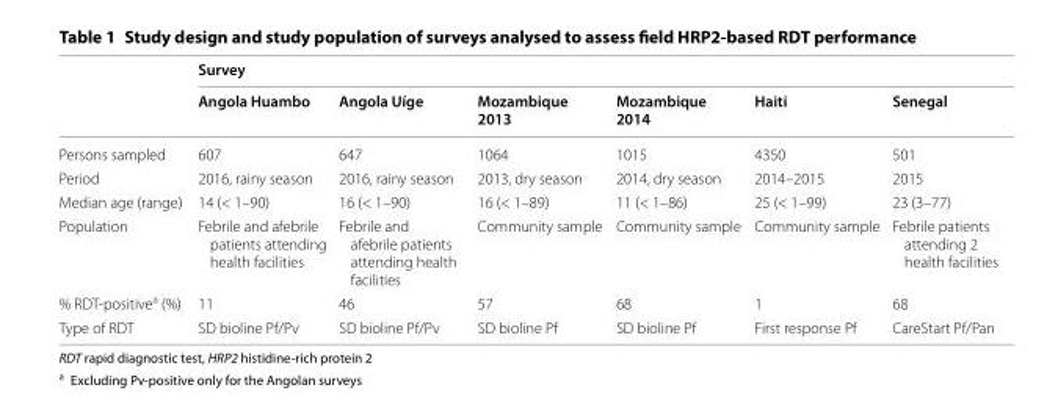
<table><thead><tr><td rowspan="2"></td><td colspan="6">Survey</td></tr><tr><td>Angola Huambo</td><td>Angola Uíge</td><td>Mozambique 2013</td><td>Mozambique 2014</td><td>Haiti</td><td>Senegal</td></tr></thead><tbody><tr><td>Persons sampled</td><td>607</td><td>647</td><td>1064</td><td>1015</td><td>4350</td><td>501</td></tr><tr><td>Period</td><td>2016, rainy season</td><td>2016, rainy season</td><td>2013, dry season</td><td>2014, dry season</td><td>2014–2015</td><td>2015</td></tr><tr><td>Median age (range)</td><td>14 (&lt; 1–90)</td><td>16 (&lt; 1–90)</td><td>16 (&lt; 1–89)</td><td>11 (&lt; 1–86)</td><td>25 (&lt; 1–99)</td><td>23 (3–77)</td></tr><tr><td>Population</td><td>Febrile and afebrile patients attending health facilities</td><td>Febrile and afebrile patients attending health facilities</td><td>Community sample</td><td>Community sample</td><td>Community sample</td><td>Febrile patients attending 2 health facilities</td></tr><tr><td>% RDT-positive<sup>a</sup> (%)</td><td>11</td><td>46</td><td>57</td><td>68</td><td>1</td><td>68</td></tr><tr><td>Type of RDT</td><td>SD bioline Pf/Pv</td><td>SD bioline Pf/Pv</td><td>SD bioline Pf</td><td>SD bioline Pf</td><td>First response Pf</td><td>CareStart Pf/Pan</td></tr></tbody></table>